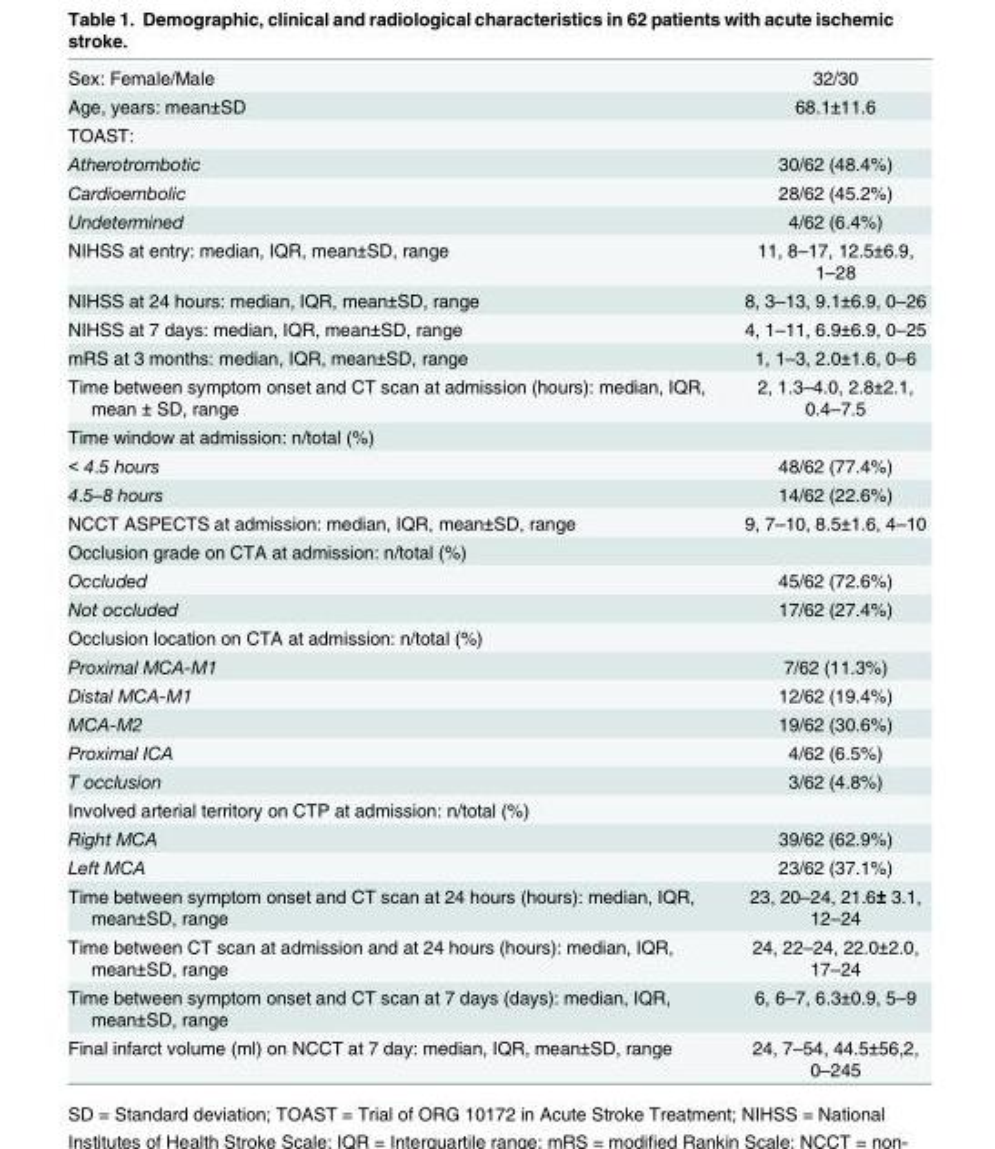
<table><tbody><tr><td>Sex: Female/Male</td><td>32/30</td></tr><tr><td>Age, years: mean±SD</td><td>68.1±11.6</td></tr><tr><td colspan="2">TOAST:</td></tr><tr><td>Atherotrombotic</td><td>30/62 (48.4%)</td></tr><tr><td>Cardioembolic</td><td>28/62 (45.2%)</td></tr><tr><td>Undetermined</td><td>4/62 (6.4%)</td></tr><tr><td>NIHSS at entry: median, IQR, mean±SD, range</td><td>11, 8–17, 12.5±6.9, 1–28</td></tr><tr><td>NIHSS at 24 hours: median, IQR, mean±SD, range</td><td>8, 3–13, 9.1±6.9, 0–26</td></tr><tr><td>NIHSS at 7 days: median, IQR, mean±SD, range</td><td>4, 1–11, 6.9±6.9, 0–25</td></tr><tr><td>mRS at 3 months: median, IQR, mean±SD, range</td><td>1, 1–3, 2.0±1.6, 0–6</td></tr><tr><td>Time between symptom onset and CT scan at admission (hours): median, IQR, mean ± SD, range</td><td>2, 1.3–4.0, 2.8±2.1, 0.4–7.5</td></tr><tr><td colspan="2">Time window at admission: n/total (%)</td></tr><tr><td>&lt; 4.5 hours</td><td>48/62 (77.4%)</td></tr><tr><td>4.5–8 hours</td><td>14/62 (22.6%)</td></tr><tr><td>NCCT ASPECTS at admission: median, IQR, mean±SD, range</td><td>9, 7–10, 8.5±1.6, 4–10</td></tr><tr><td colspan="2">Occlusion grade on CTA at admission: n/total (%)</td></tr><tr><td>Occluded</td><td>45/62 (72.6%)</td></tr><tr><td>Not occluded</td><td>17/62 (27.4%)</td></tr><tr><td colspan="2">Occlusion location on CTA at admission: n/total (%)</td></tr><tr><td>Proximal MCA-M1</td><td>7/62 (11.3%)</td></tr><tr><td>Distal MCA-M1</td><td>12/62 (19.4%)</td></tr><tr><td>MCA-M2</td><td>19/62 (30.6%)</td></tr><tr><td>Proximal ICA</td><td>4/62 (6.5%)</td></tr><tr><td>T occlusion</td><td>3/62 (4.8%)</td></tr><tr><td colspan="2">Involved arterial territory on CTP at admission: n/total (%)</td></tr><tr><td>Right MCA</td><td>39/62 (62.9%)</td></tr><tr><td>Left MCA</td><td>23/62 (37.1%)</td></tr><tr><td>Time between symptom onset and CT scan at 24 hours (hours): median, IQR, mean±SD, range</td><td>23, 20–24, 21.6± 3.1, 12–24</td></tr><tr><td>Time between CT scan at admission and at 24 hours (hours): median, IQR, mean±SD, range</td><td>24, 22–24, 22.0±2.0, 17–24</td></tr><tr><td>Time between symptom onset and CT scan at 7 days (days): median, IQR, mean±SD, range</td><td>6, 6–7, 6.3±0.9, 5–9</td></tr><tr><td>Final infarct volume (ml) on NCCT at 7 day: median, IQR, mean±SD, range</td><td>24, 7–54, 44.5±56,2, 0–245</td></tr></tbody></table>